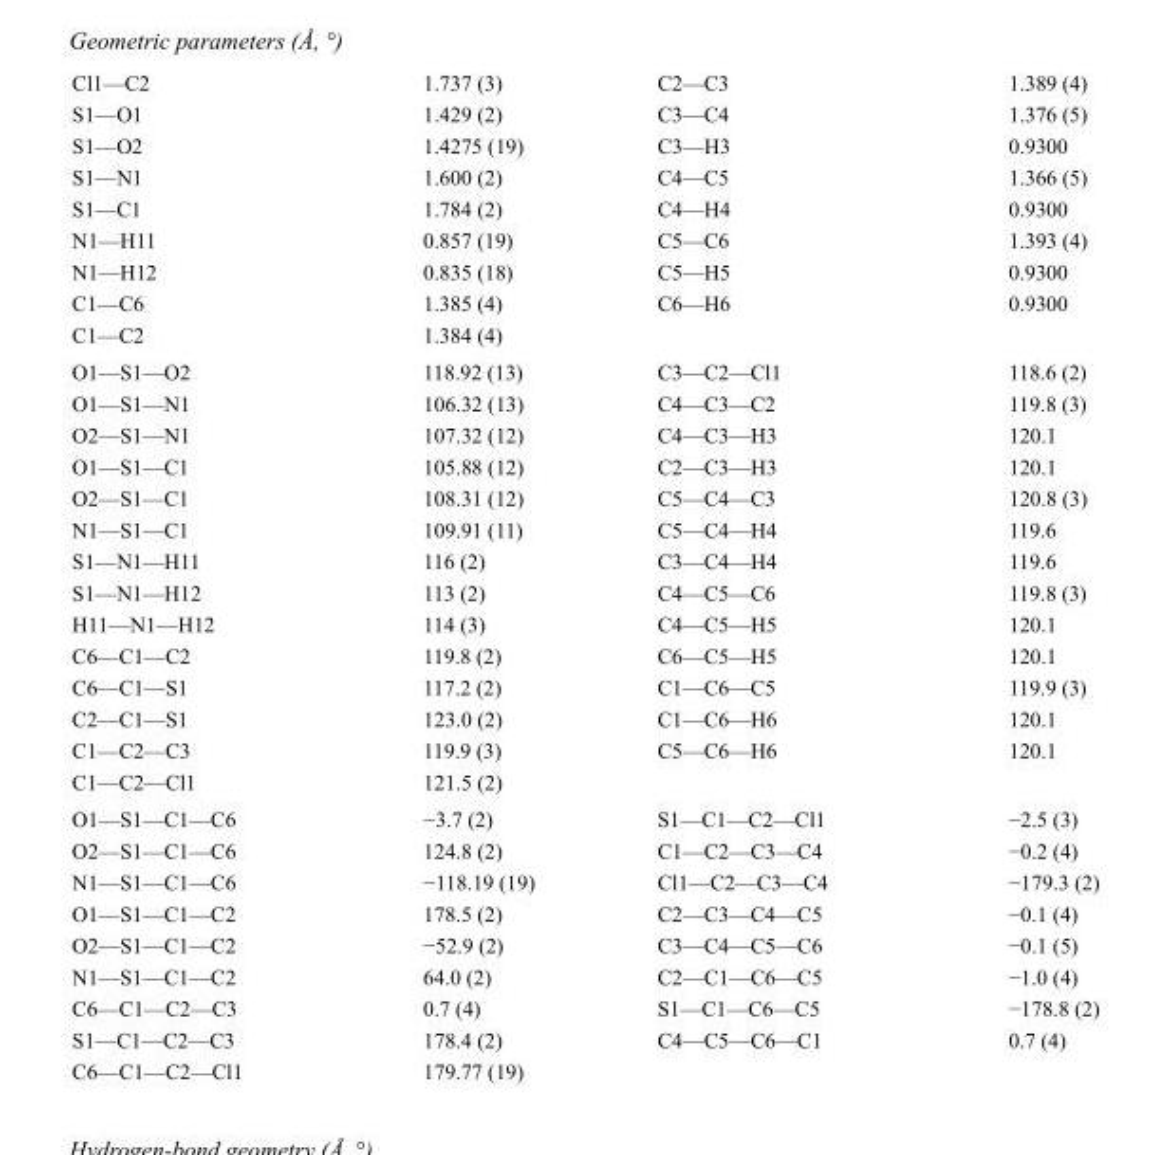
<table><tbody><tr><td>Cl1—C2</td><td>1.737 (3)</td><td>C2—C3</td><td>1.389 (4)</td></tr><tr><td>S1—O1</td><td>1.429 (2)</td><td>C3—C4</td><td>1.376 (5)</td></tr><tr><td>S1—O2</td><td>1.4275 (19)</td><td>C3—H3</td><td>0.9300</td></tr><tr><td>S1—N1</td><td>1.600 (2)</td><td>C4—C5</td><td>1.366 (5)</td></tr><tr><td>S1—C1</td><td>1.784 (2)</td><td>C4—H4</td><td>0.9300</td></tr><tr><td>N1—H11</td><td>0.857 (19)</td><td>C5—C6</td><td>1.393 (4)</td></tr><tr><td>N1—H12</td><td>0.835 (18)</td><td>C5—H5</td><td>0.9300</td></tr><tr><td>C1—C6</td><td>1.385 (4)</td><td>C6—H6</td><td>0.9300</td></tr><tr><td>C1—C2</td><td>1.384 (4)</td><td></td><td></td></tr><tr><td>O1—S1—O2</td><td>118.92 (13)</td><td>C3—C2—Cl1</td><td>118.6 (2)</td></tr><tr><td>O1—S1—N1</td><td>106.32 (13)</td><td>C4—C3—C2</td><td>119.8 (3)</td></tr><tr><td>O2—S1—N1</td><td>107.32 (12)</td><td>C4—C3—H3</td><td>120.1</td></tr><tr><td>O1—S1—C1</td><td>105.88 (12)</td><td>C2—C3—H3</td><td>120.1</td></tr><tr><td>O2—S1—C1</td><td>108.31 (12)</td><td>C5—C4—C3</td><td>120.8 (3)</td></tr><tr><td>N1—S1—C1</td><td>109.91 (11)</td><td>C5—C4—H4</td><td>119.6</td></tr><tr><td>S1—N1—H11</td><td>116 (2)</td><td>C3—C4—H4</td><td>119.6</td></tr><tr><td>S1—N1—H12</td><td>113 (2)</td><td>C4—C5—C6</td><td>119.8 (3)</td></tr><tr><td>H11—N1—H12</td><td>114 (3)</td><td>C4—C5—H5</td><td>120.1</td></tr><tr><td>C6—C1—C2</td><td>119.8 (2)</td><td>C6—C5—H5</td><td>120.1</td></tr><tr><td>C6—C1—S1</td><td>117.2 (2)</td><td>C1—C6—C5</td><td>119.9 (3)</td></tr><tr><td>C2—C1—S1</td><td>123.0 (2)</td><td>C1—C6—H6</td><td>120.1</td></tr><tr><td>C1—C2—C3</td><td>119.9 (3)</td><td>C5—C6—H6</td><td>120.1</td></tr><tr><td>C1—C2—Cl1</td><td>121.5 (2)</td><td></td><td></td></tr><tr><td>O1—S1—C1—C6</td><td>−3.7 (2)</td><td>S1—C1—C2—Cl1</td><td>−2.5 (3)</td></tr><tr><td>O2—S1—C1—C6</td><td>124.8 (2)</td><td>C1—C2—C3—C4</td><td>−0.2 (4)</td></tr><tr><td>N1—S1—C1—C6</td><td>−118.19 (19)</td><td>Cl1—C2—C3—C4</td><td>−179.3 (2)</td></tr><tr><td>O1—S1—C1—C2</td><td>178.5 (2)</td><td>C2—C3—C4—C5</td><td>−0.1 (4)</td></tr><tr><td>O2—S1—C1—C2</td><td>−52.9 (2)</td><td>C3—C4—C5—C6</td><td>−0.1 (5)</td></tr><tr><td>N1—S1—C1—C2</td><td>64.0 (2)</td><td>C2—C1—C6—C5</td><td>−1.0 (4)</td></tr><tr><td>C6—C1—C2—C3</td><td>0.7 (4)</td><td>S1—C1—C6—C5</td><td>−178.8 (2)</td></tr><tr><td>S1—C1—C2—C3</td><td>178.4 (2)</td><td>C4—C5—C6—C1</td><td>0.7 (4)</td></tr><tr><td>C6—C1—C2—Cl1</td><td>179.77 (19)</td><td></td><td></td></tr></tbody></table>